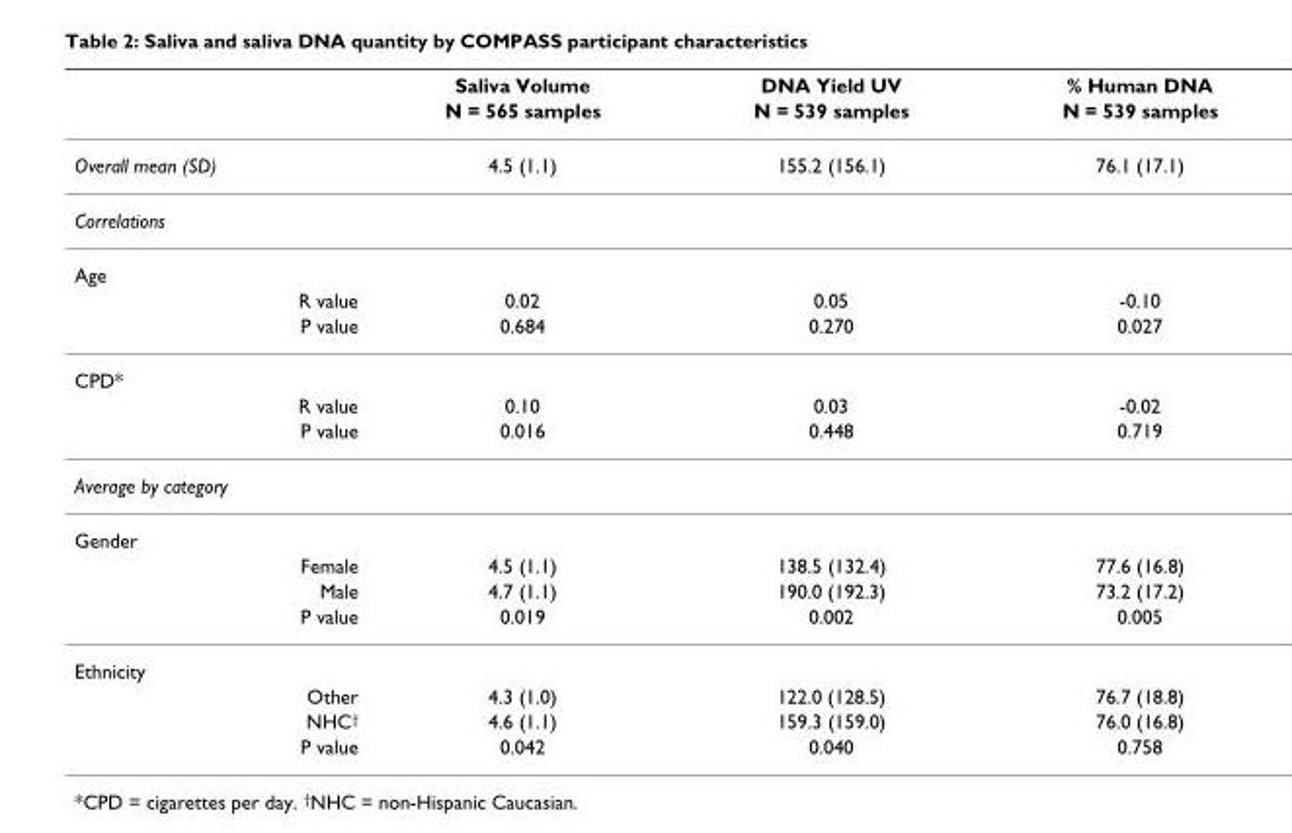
<table><thead><tr><td rowspan="2"></td><td rowspan="2">Saliva Volume N = 565 samples</td><td rowspan="2">DNA Yield UV N = 539 samples</td><td rowspan="2">% Human DNA N = 539 samples</td></tr><tr></tr></thead><tbody><tr><td>Overall mean (SD)</td><td>4.5 (1.1)</td><td>155.2 (156.1)</td><td>76.1 (17.1)</td></tr><tr><td colspan="4">Correlations</td></tr><tr><td colspan="4">Age</td></tr><tr><td>R value</td><td>0.02</td><td>0.05</td><td>-0.10</td></tr><tr><td>P value</td><td>0.684</td><td>0.270</td><td>0.027</td></tr><tr><td colspan="4">CPD*</td></tr><tr><td>R value</td><td>0.10</td><td>0.03</td><td>-0.02</td></tr><tr><td>P value</td><td>0.016</td><td>0.448</td><td>0.719</td></tr><tr><td colspan="4">Average by category</td></tr><tr><td colspan="4">Gender</td></tr><tr><td>Female</td><td>4.5 (1.1)</td><td>138.5 (132.4)</td><td>77.6 (16.8)</td></tr><tr><td>Male</td><td>4.7 (1.1)</td><td>190.0 (192.3)</td><td>73.2 (17.2)</td></tr><tr><td>P value</td><td>0.019</td><td>0.002</td><td>0.005</td></tr><tr><td colspan="4">Ethnicity</td></tr><tr><td>Other</td><td>4.3 (1.0)</td><td>122.0 (128.5)</td><td>76.7 (18.8)</td></tr><tr><td>NHC<sup>†</sup></td><td>4.6 (1.1)</td><td>159.3 (159.0)</td><td>76.0 (16.8)</td></tr><tr><td>P value</td><td>0.042</td><td>0.040</td><td>0.758</td></tr></tbody></table>